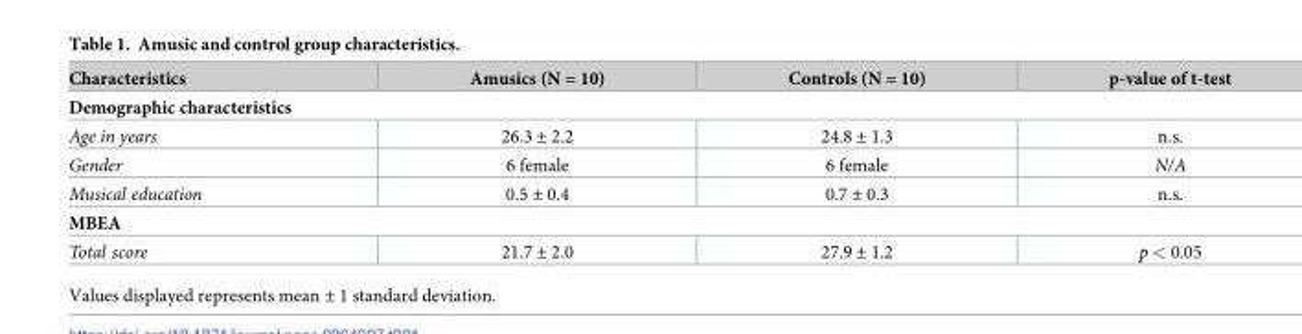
<table><thead><tr><td>Characteristics</td><td>Amusics (N = 10)</td><td>Controls (N = 10)</td><td>p-value of t-test</td></tr></thead><tbody><tr><td colspan="4">Demographic characteristics</td></tr><tr><td>Age in years</td><td>26.3 ± 2.2</td><td>24.8 ± 1.3</td><td>n.s.</td></tr><tr><td>Gender</td><td>6 female</td><td>6 female</td><td>N/A</td></tr><tr><td>Musical education</td><td>0.5 ± 0.4</td><td>0.7 ± 0.3</td><td>n.s.</td></tr><tr><td colspan="4">MBEA</td></tr><tr><td>Total score</td><td>21.7 ± 2.0</td><td>27.9 ± 1.2</td><td>p &lt; 0.05</td></tr></tbody></table>